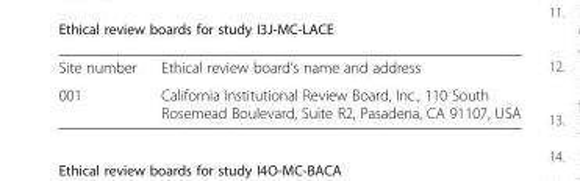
<table><tbody><tr><td>Site number</td><td>Ethical review board’s name and address</td></tr><tr><td>001</td><td>California Institutional Review Board, Inc., 110 South Rosemead Boulevard, Suite R2, Pasadena, CA 91107, USA</td></tr></tbody></table>